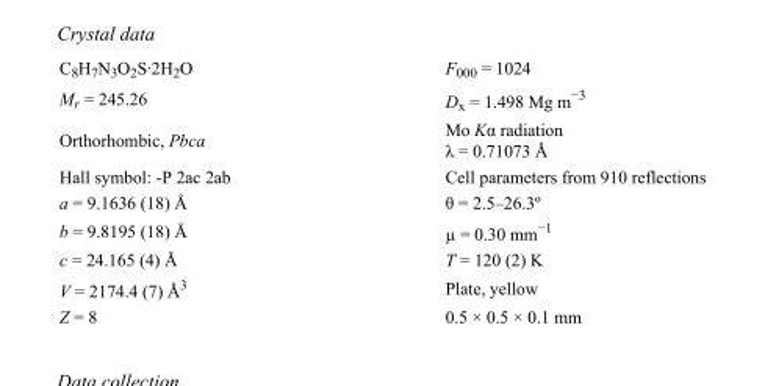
<table><tbody><tr><td>C<sub>8</sub>H<sub>7</sub>N<sub>3</sub>O<sub>2</sub>S·2H<sub>2</sub>O</td><td>F<sub>000</sub> = 1024</td></tr><tr><td>M<sub>r</sub> = 245.26</td><td>D<sub>x</sub> = 1.498 Mg m<sup>−3</sup></td></tr><tr><td>Orthorhombic, Pbca</td><td>Mo Kα radiation λ = 0.71073 Å</td></tr><tr><td>Hall symbol: -P 2ac 2ab</td><td>Cell parameters from 910 reflections</td></tr><tr><td>a = 9.1636 (18) Å</td><td>θ = 2.5–26.3º</td></tr><tr><td>b = 9.8195 (18) Å</td><td>µ = 0.30 mm<sup>−1</sup></td></tr><tr><td>c = 24.165 (4) Å</td><td>T = 120 (2) K</td></tr><tr><td>V = 2174.4 (7) Å<sup>3</sup></td><td>Plate, yellow</td></tr><tr><td>Z = 8</td><td>0.5 × 0.5 × 0.1 mm</td></tr></tbody></table>